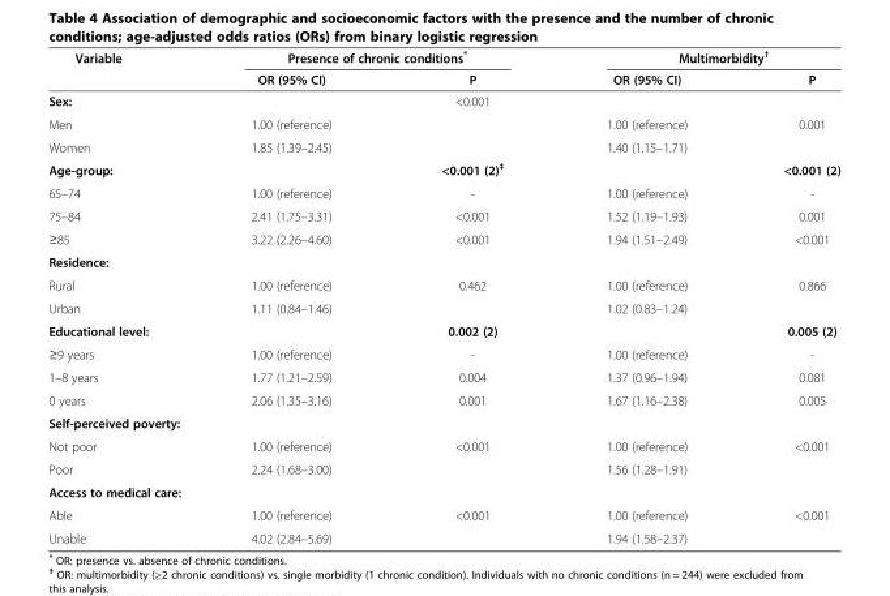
<table><thead><tr><td rowspan="2">Variable</td><td colspan="2">Presence of chronic conditions*</td><td colspan="2">Multimorbidity<sup>†</sup></td></tr><tr><td>OR (95% CI)</td><td>P</td><td>OR (95% CI)</td><td>P</td></tr></thead><tbody><tr><td>Sex:</td><td></td><td>&lt;0.001</td><td></td><td></td></tr><tr><td>Men</td><td>1.00 (reference)</td><td></td><td>1.00 (reference)</td><td>0.001</td></tr><tr><td>Women</td><td>1.85 (1.39–2.45)</td><td></td><td>1.40 (1.15–1.71)</td><td></td></tr><tr><td>Age-group:</td><td></td><td>&lt;0.001 (2)<sup>‡</sup></td><td></td><td>&lt;0.001 (2)</td></tr><tr><td>65–74</td><td>1.00 (reference)</td><td>-</td><td>1.00 (reference)</td><td>-</td></tr><tr><td>75–84</td><td>2.41 (1.75–3.31)</td><td>&lt;0.001</td><td>1.52 (1.19–1.93)</td><td>0.001</td></tr><tr><td>≥85</td><td>3.22 (2.26–4.60)</td><td>&lt;0.001</td><td>1.94 (1.51–2.49)</td><td>&lt;0.001</td></tr><tr><td colspan="5">Residence:</td></tr><tr><td>Rural</td><td>1.00 (reference)</td><td>0.462</td><td>1.00 (reference)</td><td>0.866</td></tr><tr><td>Urban</td><td>1.11 (0.84–1.46)</td><td></td><td>1.02 (0.83–1.24)</td><td></td></tr><tr><td>Educational level:</td><td></td><td>0.002 (2)</td><td></td><td>0.005 (2)</td></tr><tr><td>≥9 years</td><td>1.00 (reference)</td><td>-</td><td>1.00 (reference)</td><td>-</td></tr><tr><td>1–8 years</td><td>1.77 (1.21–2.59)</td><td>0.004</td><td>1.37 (0.96–1.94)</td><td>0.081</td></tr><tr><td>0 years</td><td>2.06 (1.35–3.16)</td><td>0.001</td><td>1.67 (1.16–2.38)</td><td>0.005</td></tr><tr><td colspan="5">Self-perceived poverty:</td></tr><tr><td>Not poor</td><td>1.00 (reference)</td><td>&lt;0.001</td><td>1.00 (reference)</td><td>&lt;0.001</td></tr><tr><td>Poor</td><td>2.24 (1.68–3.00)</td><td></td><td>1.56 (1.28–1.91)</td><td></td></tr><tr><td colspan="5">Access to medical care:</td></tr><tr><td>Able</td><td>1.00 (reference)</td><td>&lt;0.001</td><td>1.00 (reference)</td><td>&lt;0.001</td></tr><tr><td>Unable</td><td>4.02 (2.84–5.69)</td><td></td><td>1.94 (1.58–2.37)</td><td></td></tr></tbody></table>